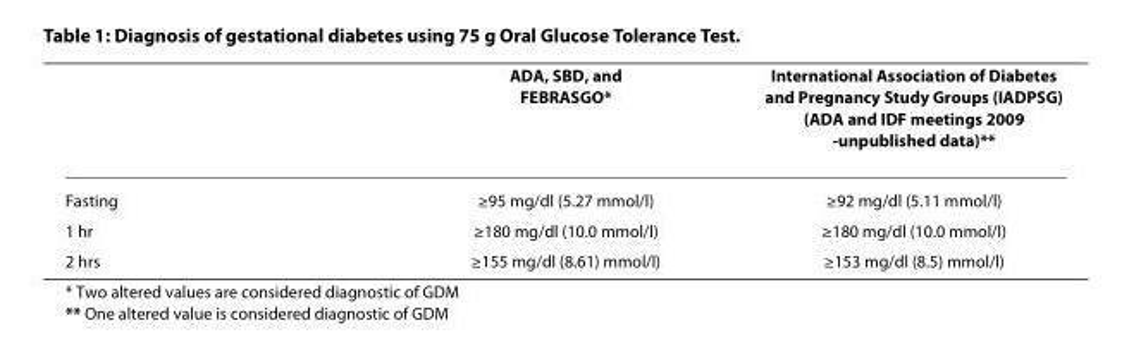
<table><thead><tr><td></td><td>ADA, SBD, and FEBRASGO*</td><td>International Association of Diabetes and Pregnancy Study Groups (IADPSG) (ADA and IDF meetings 2009 -unpublished data)**</td></tr></thead><tbody><tr><td>Fasting</td><td>≥95 mg/dl (5.27 mmol/l)</td><td>≥92 mg/dl (5.11 mmol/l)</td></tr><tr><td>1 hr</td><td>≥180 mg/dl (10.0 mmol/l)</td><td>≥180 mg/dl (10.0 mmol/l)</td></tr><tr><td>2 hrs</td><td>≥155 mg/dl (8.61) mmol/l)</td><td>≥153 mg/dl (8.5) mmol/l)</td></tr></tbody></table>